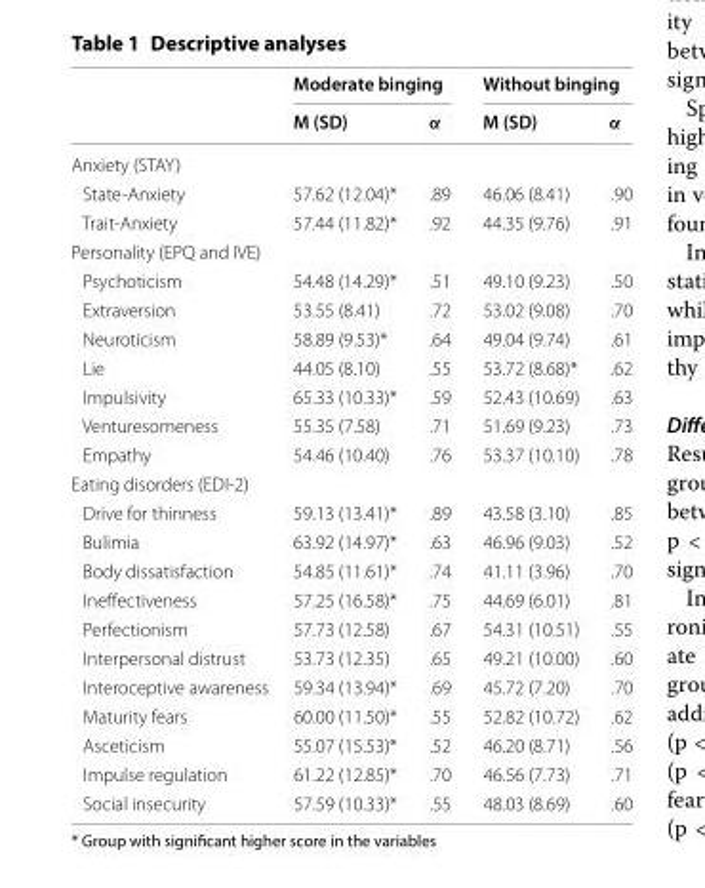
<table><thead><tr><td rowspan="2"></td><td colspan="2">Moderate binging</td><td colspan="2">Without binging</td></tr><tr><td>M (SD)</td><td>α</td><td>M (SD)</td><td>α</td></tr></thead><tbody><tr><td colspan="5">Anxiety (STAY)</td></tr><tr><td>State-Anxiety</td><td>57.62 (12.04)*</td><td>.89</td><td>46.06 (8.41)</td><td>.90</td></tr><tr><td>Trait-Anxiety</td><td>57.44 (11.82)*</td><td>.92</td><td>44.35 (9.76)</td><td>.91</td></tr><tr><td colspan="5">Personality (EPQ and IVE)</td></tr><tr><td>Psychoticism</td><td>54.48 (14.29)*</td><td>.51</td><td>49.10 (9.23)</td><td>.50</td></tr><tr><td>Extraversion</td><td>53.55 (8.41)</td><td>.72</td><td>53.02 (9.08)</td><td>.70</td></tr><tr><td>Neuroticism</td><td>58.89 (9.53)*</td><td>.64</td><td>49.04 (9.74)</td><td>.61</td></tr><tr><td>Lie</td><td>44.05 (8.10)</td><td>.55</td><td>53.72 (8.68)*</td><td>.62</td></tr><tr><td>Impulsivity</td><td>65.33 (10.33)*</td><td>.59</td><td>52.43 (10.69)</td><td>.63</td></tr><tr><td>Venturesomeness</td><td>55.35 (7.58)</td><td>.71</td><td>51.69 (9.23)</td><td>.73</td></tr><tr><td>Empathy</td><td>54.46 (10.40)</td><td>.76</td><td>53.37 (10.10)</td><td>.78</td></tr><tr><td colspan="5">Eating disorders (EDI-2)</td></tr><tr><td>Drive for thinness</td><td>59.13 (13.41)*</td><td>.89</td><td>43.58 (3.10)</td><td>.85</td></tr><tr><td>Bulimia</td><td>63.92 (14.97)*</td><td>.63</td><td>46.96 (9.03)</td><td>.52</td></tr><tr><td>Body dissatisfaction</td><td>54.85 (11.61)*</td><td>.74</td><td>41.11 (3.96)</td><td>.70</td></tr><tr><td>Ineffectiveness</td><td>57.25 (16.58)*</td><td>.75</td><td>44.69 (6.01)</td><td>.81</td></tr><tr><td>Perfectionism</td><td>57.73 (12.58)</td><td>.67</td><td>54.31 (10.51)</td><td>.55</td></tr><tr><td>Interpersonal distrust</td><td>53.73 (12.35)</td><td>.65</td><td>49.21 (10.00)</td><td>.60</td></tr><tr><td>Interoceptive awareness</td><td>59.34 (13.94)*</td><td>.69</td><td>45.72 (7.20)</td><td>.70</td></tr><tr><td>Maturity fears</td><td>60.00 (11.50)*</td><td>.55</td><td>52.82 (10.72)</td><td>.62</td></tr><tr><td>Asceticism</td><td>55.07 (15.53)*</td><td>.52</td><td>46.20 (8.71)</td><td>.56</td></tr><tr><td>Impulse regulation</td><td>61.22 (12.85)*</td><td>.70</td><td>46.56 (7.73)</td><td>.71</td></tr><tr><td>Social insecurity</td><td>57.59 (10.33)*</td><td>.55</td><td>48.03 (8.69)</td><td>.60</td></tr></tbody></table>